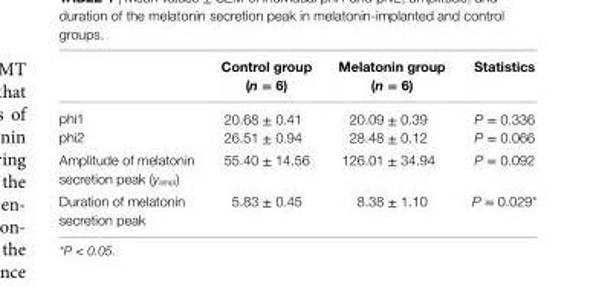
<table><thead><tr><td></td><td>control group (n = 6)</td><td>Melatonin group (n = 6)</td><td>statistics</td></tr></thead><tbody><tr><td>phi1 phi2</td><td>20.68 ± 0.41 26.51 ± 0.94</td><td>20.09 ± 0.39 28.48 ± 0.12</td><td>P = 0.336 P = 0.066</td></tr><tr><td>Amplitude of melatonin secretion peak (y<sub>ampl</sub>)</td><td>55.40 ± 14.56</td><td>126.01 ± 34.94</td><td>P = 0.092</td></tr><tr><td>Duration of melatonin secretion peak</td><td>5.83 ± 0.45</td><td>8.38 ± 1.10</td><td>P = 0.029*</td></tr></tbody></table>